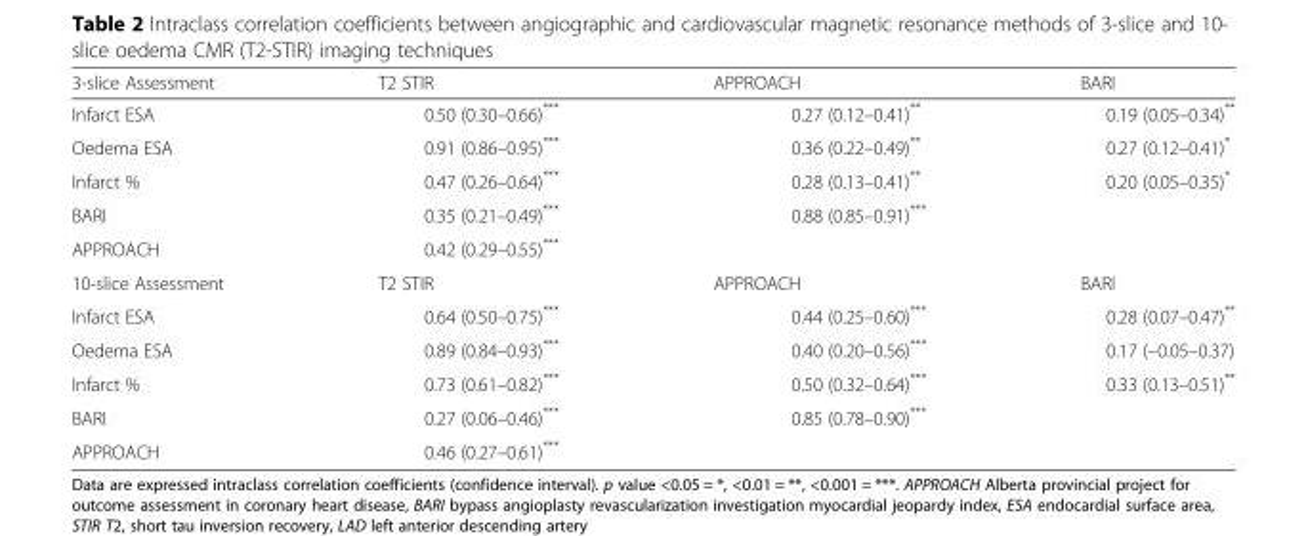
<table><thead><tr><td>3-slice Assessment</td><td>T2 STIR</td><td>APPROACH</td><td>BARI</td></tr></thead><tbody><tr><td>Infarct ESA</td><td>0.50 (0.30–0.66)***</td><td>0.27 (0.12–0.41)**</td><td>0.19 (0.05–0.34)**</td></tr><tr><td>Oedema ESA</td><td>0.91 (0.86–0.95)***</td><td>0.36 (0.22–0.49)**</td><td>0.27 (0.12–0.41)*</td></tr><tr><td>Infarct %</td><td>0.47 (0.26–0.64)***</td><td>0.28 (0.13–0.41)**</td><td>0.20 (0.05–0.35)*</td></tr><tr><td>BARI</td><td>0.35 (0.21–0.49)***</td><td>0.88 (0.85–0.91)***</td><td></td></tr><tr><td>APPROACH</td><td>0.42 (0.29–0.55)***</td><td></td><td></td></tr><tr><td>10-slice Assessment</td><td>T2 STIR</td><td>APPROACH</td><td>BARI</td></tr><tr><td>Infarct ESA</td><td>0.64 (0.50–0.75)***</td><td>0.44 (0.25–0.60)***</td><td>0.28 (0.07–0.47)**</td></tr><tr><td>Oedema ESA</td><td>0.89 (0.84–0.93)***</td><td>0.40 (0.20–0.56)***</td><td>0.17 (–0.05–0.37)</td></tr><tr><td>Infarct %</td><td>0.73 (0.61–0.82)***</td><td>0.50 (0.32–0.64)***</td><td>0.33 (0.13–0.51)**</td></tr><tr><td>BARI</td><td>0.27 (0.06–0.46)***</td><td>0.85 (0.78–0.90)***</td><td></td></tr><tr><td>APPROACH</td><td>0.46 (0.27–0.61)***</td><td></td><td></td></tr></tbody></table>